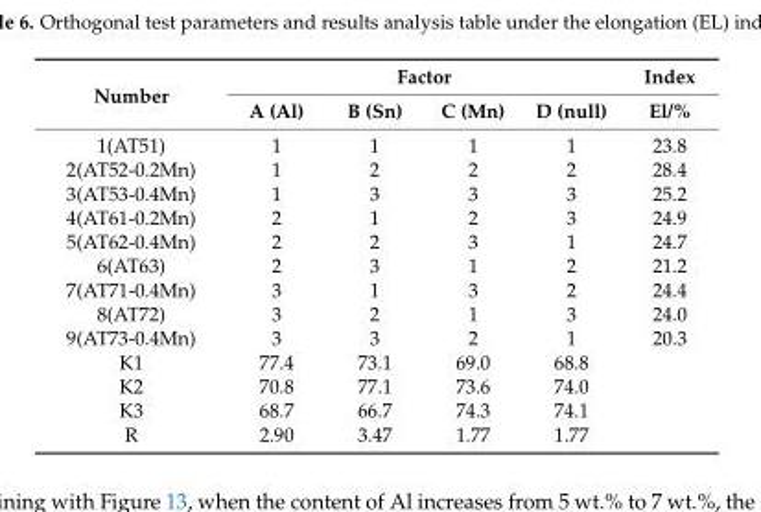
<table><thead><tr><td rowspan="2">Number</td><td colspan="4">Factor</td><td rowspan="2">Index El/%</td></tr><tr><td>A (Al)</td><td>B (Sn)</td><td>C (Mn)</td><td>D (null)</td></tr></thead><tbody><tr><td>1(AT51)</td><td>1</td><td>1</td><td>1</td><td>1</td><td>23.8</td></tr><tr><td>2(AT52-0.2Mn)</td><td>1</td><td>2</td><td>2</td><td>2</td><td>28.4</td></tr><tr><td>3(AT53-0.4Mn)</td><td>1</td><td>3</td><td>3</td><td>3</td><td>25.2</td></tr><tr><td>4(AT61-0.2Mn)</td><td>2</td><td>1</td><td>2</td><td>3</td><td>24.9</td></tr><tr><td>5(AT62-0.4Mn)</td><td>2</td><td>2</td><td>3</td><td>1</td><td>24.7</td></tr><tr><td>6(AT63)</td><td>2</td><td>3</td><td>1</td><td>2</td><td>21.2</td></tr><tr><td>7(AT71-0.4Mn)</td><td>3</td><td>1</td><td>3</td><td>2</td><td>24.4</td></tr><tr><td>8(AT72)</td><td>3</td><td>2</td><td>1</td><td>3</td><td>24.0</td></tr><tr><td>9(AT73-0.4Mn)</td><td>3</td><td>3</td><td>2</td><td>1</td><td>20.3</td></tr><tr><td>K1</td><td>77.4</td><td>73.1</td><td>69.0</td><td>68.8</td><td></td></tr><tr><td>K2</td><td>70.8</td><td>77.1</td><td>73.6</td><td>74.0</td><td></td></tr><tr><td>K3</td><td>68.7</td><td>66.7</td><td>74.3</td><td>74.1</td><td></td></tr><tr><td>R</td><td>2.90</td><td>3.47</td><td>1.77</td><td>1.77</td><td></td></tr></tbody></table>